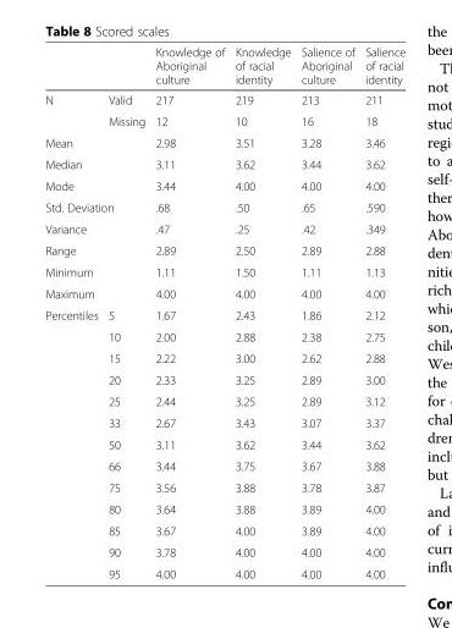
<table><thead><tr><td></td><td></td><td>Knowledge of Aboriginal culture</td><td>Knowledge of racial identity</td><td>Salience of Aboriginal culture</td><td>Salience of racial identity</td></tr></thead><tbody><tr><td rowspan="2">N</td><td>Valid</td><td>217</td><td>219</td><td>213</td><td>211</td></tr><tr><td>Missing</td><td>12</td><td>10</td><td>16</td><td>18</td></tr><tr><td colspan="2">Mean</td><td>2.98</td><td>3.51</td><td>3.28</td><td>3.46</td></tr><tr><td colspan="2">Median</td><td>3.11</td><td>3.62</td><td>3.44</td><td>3.62</td></tr><tr><td colspan="2">Mode</td><td>3.44</td><td>4.00</td><td>4.00</td><td>4.00</td></tr><tr><td colspan="2">Std. Deviation</td><td>.68</td><td>.50</td><td>.65</td><td>.590</td></tr><tr><td colspan="2">Variance</td><td>.47</td><td>.25</td><td>.42</td><td>.349</td></tr><tr><td colspan="2">Range</td><td>2.89</td><td>2.50</td><td>2.89</td><td>2.88</td></tr><tr><td colspan="2">Minimum</td><td>1.11</td><td>1.50</td><td>1.11</td><td>1.13</td></tr><tr><td colspan="2">Maximum</td><td>4.00</td><td>4.00</td><td>4.00</td><td>4.00</td></tr><tr><td rowspan="13">Percentiles</td><td>5</td><td>1.67</td><td>2.43</td><td>1.86</td><td>2.12</td></tr><tr><td>10</td><td>2.00</td><td>2.88</td><td>2.38</td><td>2.75</td></tr><tr><td>15</td><td>2.22</td><td>3.00</td><td>2.62</td><td>2.88</td></tr><tr><td>20</td><td>2.33</td><td>3.25</td><td>2.89</td><td>3.00</td></tr><tr><td>25</td><td>2.44</td><td>3.25</td><td>2.89</td><td>3.12</td></tr><tr><td>33</td><td>2.67</td><td>3.43</td><td>3.07</td><td>3.37</td></tr><tr><td>50</td><td>3.11</td><td>3.62</td><td>3.44</td><td>3.62</td></tr><tr><td>66</td><td>3.44</td><td>3.75</td><td>3.67</td><td>3.88</td></tr><tr><td>75</td><td>3.56</td><td>3.88</td><td>3.78</td><td>3.87</td></tr><tr><td>80</td><td>3.64</td><td>3.88</td><td>3.89</td><td>4.00</td></tr><tr><td>85</td><td>3.67</td><td>4.00</td><td>3.89</td><td>4.00</td></tr><tr><td>90</td><td>3.78</td><td>4.00</td><td>4.00</td><td>4.00</td></tr><tr><td>95</td><td>4.00</td><td>4.00</td><td>4.00</td><td>4.00</td></tr></tbody></table>